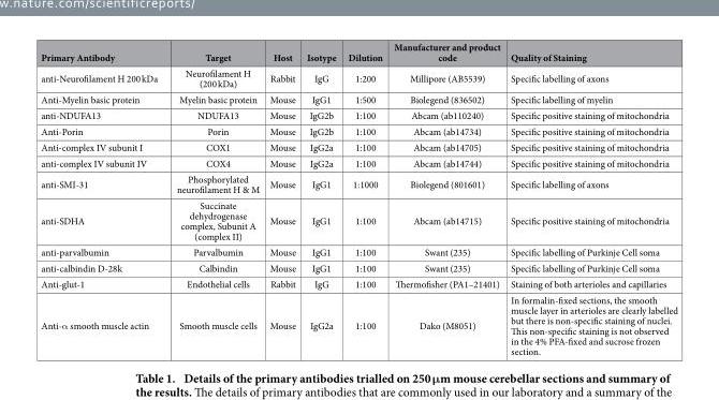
<table><thead><tr><td>Primary Antibody</td><td>Target</td><td>Host</td><td>Isotype</td><td>Dilution</td><td>Manufacturer and product code</td><td>Quality of Staining</td></tr></thead><tbody><tr><td>anti-Neurofilament H 200 kDa</td><td>Neurofilament H (200 kDa)</td><td>Rabbit</td><td>IgG</td><td>1:200</td><td>Millipore (AB5539)</td><td>Specific labelling of axons</td></tr><tr><td>Anti-Myelin basic protein</td><td>Myelin basic protein</td><td>Mouse</td><td>IgG1</td><td>1:500</td><td>Biolegend (836502)</td><td>Specific labelling of myelin</td></tr><tr><td>anti-NDUFA13</td><td>NDUFA13</td><td>Mouse</td><td>IgG2b</td><td>1:100</td><td>Abcam (ab110240)</td><td>Specific positive staining of mitochondria</td></tr><tr><td>Anti-Porin</td><td>Porin</td><td>Mouse</td><td>IgG2b</td><td>1:100</td><td>Abcam (ab14734)</td><td>Specific positive staining of mitochondria</td></tr><tr><td>Anti-complex IV subunit I</td><td>COX1</td><td>Mouse</td><td>IgG2a</td><td>1:100</td><td>Abcam (ab14705)</td><td>Specific positive staining of mitochondria</td></tr><tr><td>anti-complex IV subunit IV</td><td>COX4</td><td>Mouse</td><td>IgG2a</td><td>1:100</td><td>Abcam (ab14744)</td><td>Specific positive staining of mitochondria</td></tr><tr><td>anti-SMI-31</td><td>Phosphorylated neurofilament H &amp; M</td><td>Mouse</td><td>IgG1</td><td>1:1000</td><td>Biolegend (801601)</td><td>Specific labelling of axons</td></tr><tr><td>anti-SDHA</td><td>Succinate dehydrogenase complex, Subunit A (complex II)</td><td>Mouse</td><td>IgG1</td><td>1:100</td><td>Abcam (ab14715)</td><td>Specific positive staining of mitochondria</td></tr><tr><td>anti-parvalbumin</td><td>Parvalbumin</td><td>Mouse</td><td>IgG1</td><td>1:100</td><td>Swant (235)</td><td>Specific labelling of Purkinje Cell soma</td></tr><tr><td>anti-calbindin D-28k</td><td>Calbindin</td><td>Mouse</td><td>IgG1</td><td>1:100</td><td>Swant (235)</td><td>Specific labelling of Purkinje Cell soma</td></tr><tr><td>Anti-glut-1</td><td>Endothelial cells</td><td>Rabbit</td><td>IgG</td><td>1:100</td><td>Thermofisher (PA1–21401)</td><td>Staining of both arterioles and capillaries</td></tr><tr><td>Anti-α smooth muscle actin</td><td>Smooth muscle cells</td><td>Mouse</td><td>IgG2a</td><td>1:100</td><td>Dako (M8051)</td><td>In formalin-fixed sections, the smooth muscle layer in arterioles are clearly labelled but there is non-specific staining of nuclei. This non-specific staining is not observed in the 4% PFA-fixed and sucrose frozen section.</td></tr></tbody></table>